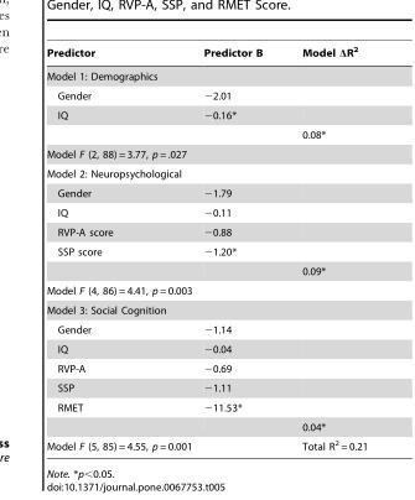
<table><thead><tr><td>Predictor</td><td>Predictor B</td><td>Model ΔR<sup>2</sup></td></tr></thead><tbody><tr><td colspan="3">Model 1: Demographics</td></tr><tr><td>Gender</td><td>−2.01</td><td></td></tr><tr><td rowspan="2">IQ</td><td>−0.16*</td><td></td></tr><tr><td></td><td>0.08*</td></tr><tr><td colspan="3">Model F (2, 88) = 3.77, p = .027</td></tr><tr><td colspan="3">Model 2: Neuropsychological</td></tr><tr><td>Gender</td><td>−1.79</td><td></td></tr><tr><td>IQ</td><td>−0.11</td><td></td></tr><tr><td>RVP-A score</td><td>−0.88</td><td></td></tr><tr><td rowspan="2">SSP score</td><td>−1.20*</td><td></td></tr><tr><td></td><td>0.09*</td></tr><tr><td colspan="3">Model F (4, 86) = 4.41, p = 0.003</td></tr><tr><td colspan="3">Model 3: Social Cognition</td></tr><tr><td>Gender</td><td>−1.14</td><td></td></tr><tr><td>IQ</td><td>−0.04</td><td></td></tr><tr><td>RVP-A</td><td>−0.69</td><td></td></tr><tr><td>SSP</td><td>−1.11</td><td></td></tr><tr><td rowspan="2">RMET</td><td>−11.53*</td><td></td></tr><tr><td></td><td>0.04*</td></tr><tr><td colspan="2">Model F (5, 85) = 4.55, p = 0.001</td><td>Total R<sup>2</sup> = 0.21</td></tr></tbody></table>